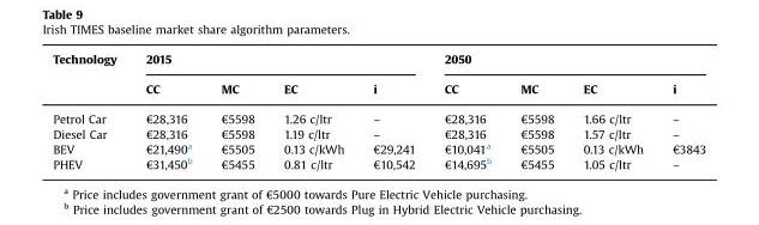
<table><thead><tr><td rowspan="2">Technology</td><td colspan="4">2015</td><td colspan="4">2050</td></tr><tr><td>CC</td><td>MC</td><td>EC</td><td>i</td><td>CC</td><td>MC</td><td>EC</td><td>i</td></tr></thead><tbody><tr><td>Petrol Car</td><td>€28,316</td><td>€5598</td><td>1.26 c/ltr</td><td>–</td><td>€28,316</td><td>€5598</td><td>1.66 c/ltr</td><td>–</td></tr><tr><td>Diesel Car</td><td>€28,316</td><td>€5598</td><td>1.19 c/ltr</td><td>–</td><td>€28,316</td><td>€5598</td><td>1.57 c/ltr</td><td>–</td></tr><tr><td>BEV</td><td>€21,490<sup>a</sup></td><td>€5505</td><td>0.13 c/kWh</td><td>€29,241</td><td>€10,041<sup>a</sup></td><td>€5505</td><td>0.13 c/kWh</td><td>€3843</td></tr><tr><td>PHEV</td><td>€31,450<sup>b</sup></td><td>€5455</td><td>0.81 c/ltr</td><td>€10,542</td><td>€14,695<sup>b</sup></td><td>€5455</td><td>1.05 c/ltr</td><td>–</td></tr></tbody></table>